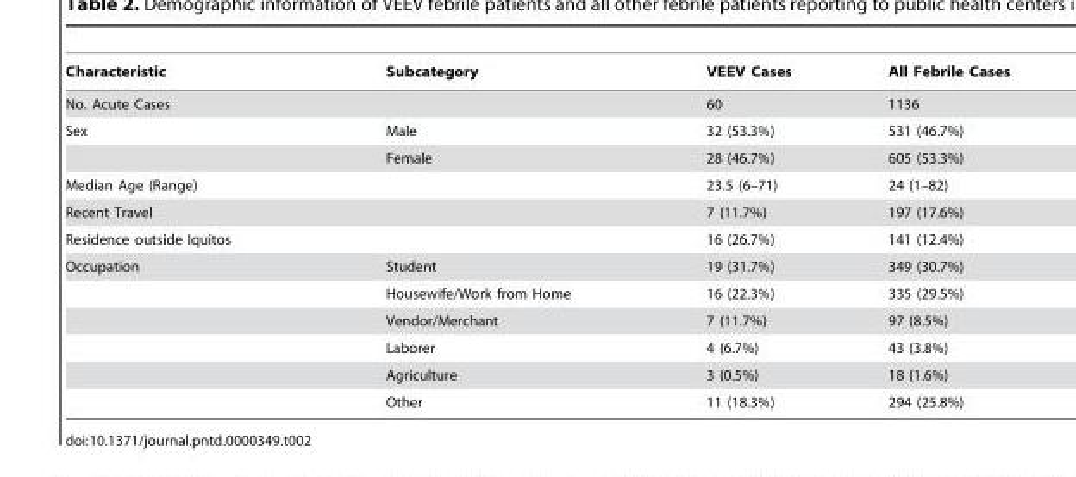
<table><thead><tr><td>Characteristic</td><td>Subcategory</td><td>VEEV Cases</td><td>All Febrile Cases</td></tr></thead><tbody><tr><td>No. Acute Cases</td><td></td><td>60</td><td>1136</td></tr><tr><td rowspan="2">Sex</td><td>Male</td><td>32 (53.3%)</td><td>531 (46.7%)</td></tr><tr><td>Female</td><td>28 (46.7%)</td><td>605 (53.3%)</td></tr><tr><td>Median Age (Range)</td><td></td><td>23.5 (6–71)</td><td>24 (1–82)</td></tr><tr><td>Recent Travel</td><td></td><td>7 (11.7%)</td><td>197 (17.6%)</td></tr><tr><td>Residence outside Iquitos</td><td></td><td>16 (26.7%)</td><td>141 (12.4%)</td></tr><tr><td rowspan="6">Occupation</td><td>Student</td><td>19 (31.7%)</td><td>349 (30.7%)</td></tr><tr><td>Housewife/Work from Home</td><td>16 (22.3%)</td><td>335 (29.5%)</td></tr><tr><td>Vendor/Merchant</td><td>7 (11.7%)</td><td>97 (8.5%)</td></tr><tr><td>Laborer</td><td>4 (6.7%)</td><td>43 (3.8%)</td></tr><tr><td>Agriculture</td><td>3 (0.5%)</td><td>18 (1.6%)</td></tr><tr><td>Other</td><td>11 (18.3%)</td><td>294 (25.8%)</td></tr></tbody></table>